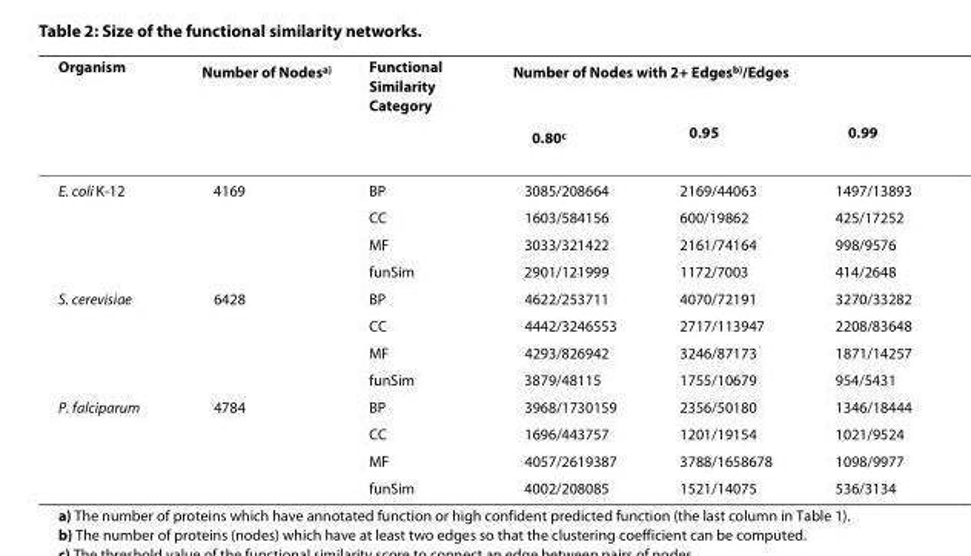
<table><thead><tr><td rowspan="2">Organism</td><td rowspan="2">Number of Nodes<sup>a)</sup></td><td rowspan="2">Functional Similarity Category</td><td colspan="3">Number of Nodes with 2+ Edges<sup>b)</sup>/Edges</td></tr><tr><td>0.80c</td><td>0.95</td><td>0.99</td></tr></thead><tbody><tr><td rowspan="4">E. coli K-12</td><td>4169</td><td>BP</td><td>3085/208664</td><td>2169/44063</td><td>1497/13893</td></tr><tr><td></td><td>CC</td><td>1603/584156</td><td>600/19862</td><td>425/17252</td></tr><tr><td></td><td>MF</td><td>3033/321422</td><td>2161/74164</td><td>998/9576</td></tr><tr><td></td><td>funSim</td><td>2901/121999</td><td>1172/7003</td><td>414/2648</td></tr><tr><td rowspan="4">S. cerevisiae</td><td>6428</td><td>BP</td><td>4622/253711</td><td>4070/72191</td><td>3270/33282</td></tr><tr><td></td><td>CC</td><td>4442/3246553</td><td>2717/113947</td><td>2208/83648</td></tr><tr><td></td><td>MF</td><td>4293/826942</td><td>3246/87173</td><td>1871/14257</td></tr><tr><td></td><td>funSim</td><td>3879/48115</td><td>1755/10679</td><td>954/5431</td></tr><tr><td rowspan="4">P. falciparum</td><td>4784</td><td>BP</td><td>3968/1730159</td><td>2356/50180</td><td>1346/18444</td></tr><tr><td></td><td>CC</td><td>1696/443757</td><td>1201/19154</td><td>1021/9524</td></tr><tr><td></td><td>MF</td><td>4057/2619387</td><td>3788/1658678</td><td>1098/9977</td></tr><tr><td></td><td>funSim</td><td>4002/208085</td><td>1521/14075</td><td>536/3134</td></tr></tbody></table>